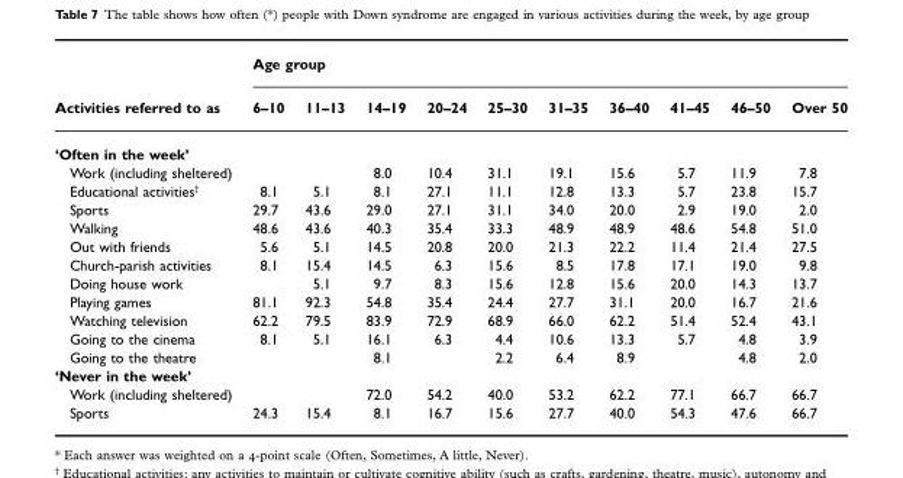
<table><thead><tr><td rowspan="2">Activities referred to as</td><td colspan="10">Age group</td></tr><tr><td>6–10</td><td>11–13</td><td>14–19</td><td>20–24</td><td>25–30</td><td>31–35</td><td>36–40</td><td>41–45</td><td>46–50</td><td>Over 50</td></tr></thead><tbody><tr><td colspan="11">‘Often in the week’</td></tr><tr><td>Work (including sheltered)</td><td></td><td></td><td>8.0</td><td>10.4</td><td>31.1</td><td>19.1</td><td>15.6</td><td>5.7</td><td>11.9</td><td>7.8</td></tr><tr><td>Educational activities†</td><td>8.1</td><td>5.1</td><td>8.1</td><td>27.1</td><td>11.1</td><td>12.8</td><td>13.3</td><td>5.7</td><td>23.8</td><td>15.7</td></tr><tr><td>Sports</td><td>29.7</td><td>43.6</td><td>29.0</td><td>27.1</td><td>31.1</td><td>34.0</td><td>20.0</td><td>2.9</td><td>19.0</td><td>2.0</td></tr><tr><td>Walking</td><td>48.6</td><td>43.6</td><td>40.3</td><td>35.4</td><td>33.3</td><td>48.9</td><td>48.9</td><td>48.6</td><td>54.8</td><td>51.0</td></tr><tr><td>Out with friends</td><td>5.6</td><td>5.1</td><td>14.5</td><td>20.8</td><td>20.0</td><td>21.3</td><td>22.2</td><td>11.4</td><td>21.4</td><td>27.5</td></tr><tr><td>Church-parish activities</td><td>8.1</td><td>15.4</td><td>14.5</td><td>6.3</td><td>15.6</td><td>8.5</td><td>17.8</td><td>17.1</td><td>19.0</td><td>9.8</td></tr><tr><td>Doing house work</td><td></td><td>5.1</td><td>9.7</td><td>8.3</td><td>15.6</td><td>12.8</td><td>15.6</td><td>20.0</td><td>14.3</td><td>13.7</td></tr><tr><td>Playing games</td><td>81.1</td><td>92.3</td><td>54.8</td><td>35.4</td><td>24.4</td><td>27.7</td><td>31.1</td><td>20.0</td><td>16.7</td><td>21.6</td></tr><tr><td>Watching television</td><td>62.2</td><td>79.5</td><td>83.9</td><td>72.9</td><td>68.9</td><td>66.0</td><td>62.2</td><td>51.4</td><td>52.4</td><td>43.1</td></tr><tr><td>Going to the cinema</td><td>8.1</td><td>5.1</td><td>16.1</td><td>6.3</td><td>4.4</td><td>10.6</td><td>13.3</td><td>5.7</td><td>4.8</td><td>3.9</td></tr><tr><td>Going to the theatre</td><td></td><td></td><td>8.1</td><td></td><td>2.2</td><td>6.4</td><td>8.9</td><td></td><td>4.8</td><td>2.0</td></tr><tr><td colspan="11">‘Never in the week’</td></tr><tr><td>Work (including sheltered)</td><td></td><td></td><td>72.0</td><td>54.2</td><td>40.0</td><td>53.2</td><td>62.2</td><td>77.1</td><td>66.7</td><td>66.7</td></tr><tr><td>Sports</td><td>24.3</td><td>15.4</td><td>8.1</td><td>16.7</td><td>15.6</td><td>27.7</td><td>40.0</td><td>54.3</td><td>47.6</td><td>66.7</td></tr></tbody></table>